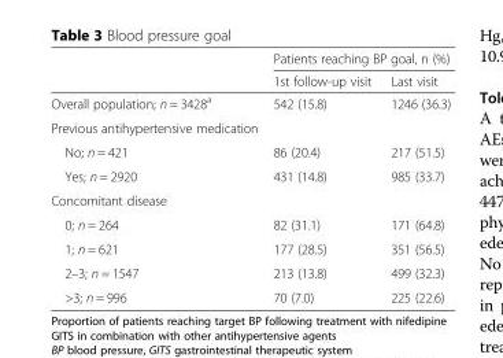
<table><thead><tr><td rowspan="2"></td><td colspan="2">Patients reaching BP goal, n (%)</td></tr><tr><td>1st follow-up visit</td><td>Last visit</td></tr></thead><tbody><tr><td>Overall population; n = 3428<sup>a</sup></td><td>542 (15.8)</td><td>1246 (36.3)</td></tr><tr><td colspan="3">Previous antihypertensive medication</td></tr><tr><td>No; n = 421</td><td>86 (20.4)</td><td>217 (51.5)</td></tr><tr><td>Yes; n = 2920</td><td>431 (14.8)</td><td>985 (33.7)</td></tr><tr><td colspan="3">Concomitant disease</td></tr><tr><td>0; n = 264</td><td>82 (31.1)</td><td>171 (64.8)</td></tr><tr><td>1; n = 621</td><td>177 (28.5)</td><td>351 (56.5)</td></tr><tr><td>2–3; n = 1547</td><td>213 (13.8)</td><td>499 (32.3)</td></tr><tr><td>&gt;3; n = 996</td><td>70 (7.0)</td><td>225 (22.6)</td></tr></tbody></table>